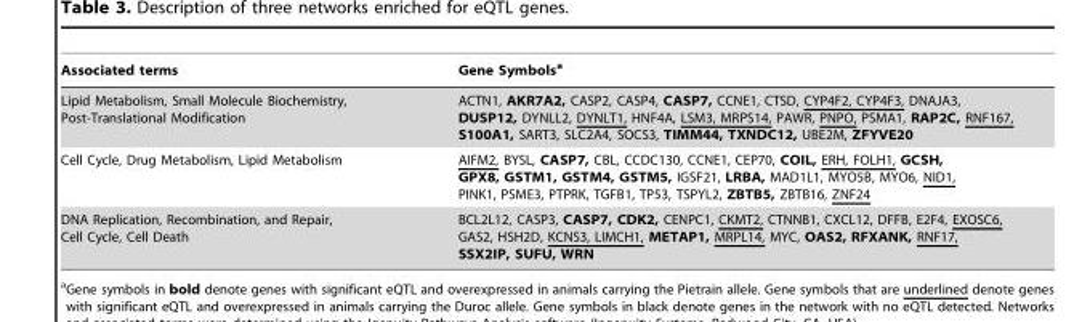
<table><thead><tr><td>Associated terms</td><td>Gene Symbols<sup>a</sup></td></tr></thead><tbody><tr><td>Lipid Metabolism, Small Molecule Biochemistry, Post-Translational Modification</td><td>ACTN1, AKR7A2, CASP2, CASP4, CASP7, CCNE1, CTSD, CYP4F2, CYP4F3, DNAJA3, DUSP12, DYNLL2, DYNLT1, HNF4A, LSM3, MRPS14, PAWR, PNPO, PSMA1, RAP2C, RNF167, S100A1, SART3, SLC2A4, SOCS3, TIMM44, TXNDC12, UBE2M, ZFYVE20</td></tr><tr><td>Cell Cycle, Drug Metabolism, Lipid Metabolism</td><td>AIFM2, BYSL, CASP7, CBL, CCDC130, CCNE1, CEP70, COIL, ERH, FOLH1, GCSH, GPX8, GSTM1, GSTM4, GSTM5, IGSF21, LRBA, MAD1L1, MYO5B, MYO6, NID1, PINK1, PSME3, PTPRK, TGFB1, TP53, TSPYL2, ZBTB5, ZBTB16, ZNF24</td></tr><tr><td>DNA Replication, Recombination, and Repair, Cell Cycle, Cell Death</td><td>BCL2L12, CASP3, CASP7, CDK2, CENPC1, CKMT2, CTNNB1, CXCL12, DFFB, E2F4, EXOSC6, GAS2, HSH2D, KCNS3, LIMCH1, METAP1, MRPL14, MYC, OAS2, RFXANK, RNF17, SSX2IP, SUFU, WRN</td></tr></tbody></table>